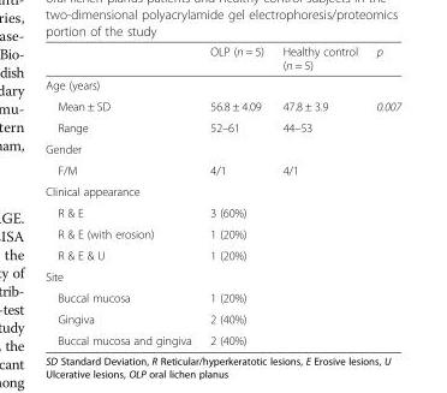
<table><thead><tr><td></td><td>OLP (n = 5)</td><td>Healthy control (n = 5)</td><td>p</td></tr></thead><tbody><tr><td colspan="4">Age (years)</td></tr><tr><td>Mean ± SD</td><td>56.8 ± 4.09</td><td>47.8 ± 3.9</td><td>0.007</td></tr><tr><td>Range</td><td>52–61</td><td>44–53</td><td></td></tr><tr><td colspan="4">Gender</td></tr><tr><td>F/M</td><td>4/1</td><td>4/1</td><td></td></tr><tr><td colspan="4">Clinical appearance</td></tr><tr><td>R &amp; E</td><td>3 (60%)</td><td></td><td></td></tr><tr><td>R &amp; E (with erosion)</td><td>1 (20%)</td><td></td><td></td></tr><tr><td>R &amp; E &amp; U</td><td>1 (20%)</td><td></td><td></td></tr><tr><td colspan="4">Site</td></tr><tr><td>Buccal mucosa</td><td>1 (20%)</td><td></td><td></td></tr><tr><td>Gingiva</td><td>2 (40%)</td><td></td><td></td></tr><tr><td>Buccal mucosa and gingiva</td><td>2 (40%)</td><td></td><td></td></tr></tbody></table>